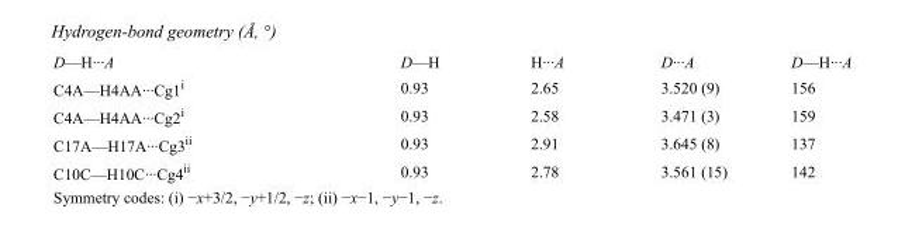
<table><tbody><tr><td>D—H···A</td><td>D—H</td><td>H···A</td><td>D···A</td><td>D—H···A</td></tr><tr><td>C4A—H4AA···Cg1<sup>i</sup></td><td>0.93</td><td>2.65</td><td>3.520 (9)</td><td>156</td></tr><tr><td>C4A—H4AA···Cg2<sup>i</sup></td><td>0.93</td><td>2.58</td><td>3.471 (3)</td><td>159</td></tr><tr><td>C17A—H17A···Cg3<sup>ii</sup></td><td>0.93</td><td>2.91</td><td>3.645 (8)</td><td>137</td></tr><tr><td>C10C—H10C···Cg4<sup>ii</sup></td><td>0.93</td><td>2.78</td><td>3.561 (15)</td><td>142</td></tr></tbody></table>